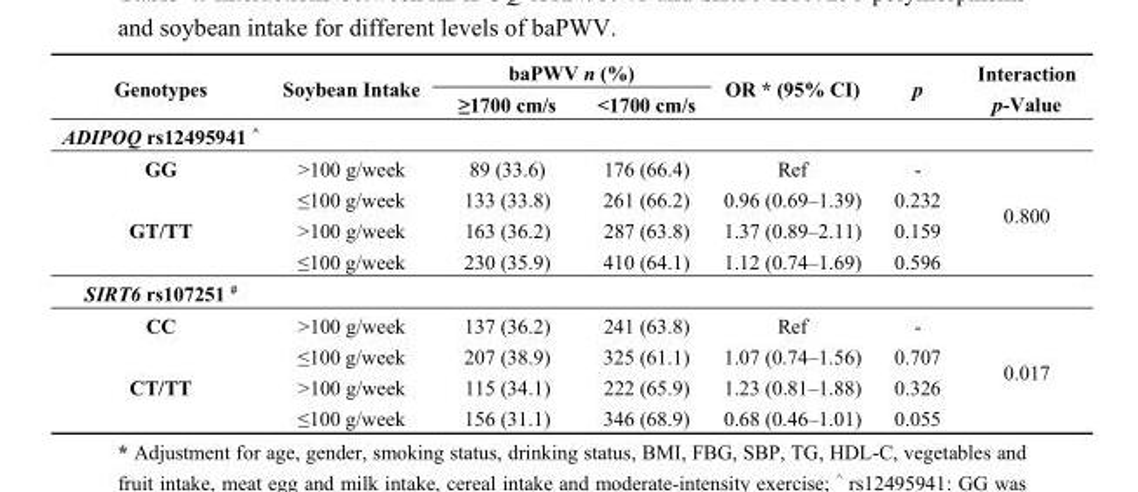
<table><thead><tr><td rowspan="2">Genotypes</td><td rowspan="2">Soybean Intake</td><td colspan="2">baPWV n (%)</td><td rowspan="2">OR * (95% CI)</td><td rowspan="2">p</td><td rowspan="2">Interaction p-Value</td></tr><tr><td>≥1700 cm/s</td><td>&lt;1700 cm/s</td></tr></thead><tbody><tr><td colspan="7">ADIPOQ rs12495941 <sup>^</sup></td></tr><tr><td rowspan="2">GG</td><td>&gt;100 g/week</td><td>89 (33.6)</td><td>176 (66.4)</td><td>Ref</td><td>-</td><td rowspan="4">0.800</td></tr><tr><td>≤100 g/week</td><td>133 (33.8)</td><td>261 (66.2)</td><td>0.96 (0.69–1.39)</td><td>0.232</td></tr><tr><td rowspan="2">GT/TT</td><td>&gt;100 g/week</td><td>163 (36.2)</td><td>287 (63.8)</td><td>1.37 (0.89–2.11)</td><td>0.159</td></tr><tr><td>≤100 g/week</td><td>230 (35.9)</td><td>410 (64.1)</td><td>1.12 (0.74–1.69)</td><td>0.596</td></tr><tr><td colspan="7">SIRT6 rs107251 <sup>#</sup></td></tr><tr><td rowspan="2">CC</td><td>&gt;100 g/week</td><td>137 (36.2)</td><td>241 (63.8)</td><td>Ref</td><td>-</td><td rowspan="4">0.017</td></tr><tr><td>≤100 g/week</td><td>207 (38.9)</td><td>325 (61.1)</td><td>1.07 (0.74–1.56)</td><td>0.707</td></tr><tr><td rowspan="2">CT/TT</td><td>&gt;100 g/week</td><td>115 (34.1)</td><td>222 (65.9)</td><td>1.23 (0.81–1.88)</td><td>0.326</td></tr><tr><td>≤100 g/week</td><td>156 (31.1)</td><td>346 (68.9)</td><td>0.68 (0.46–1.01)</td><td>0.055</td></tr></tbody></table>